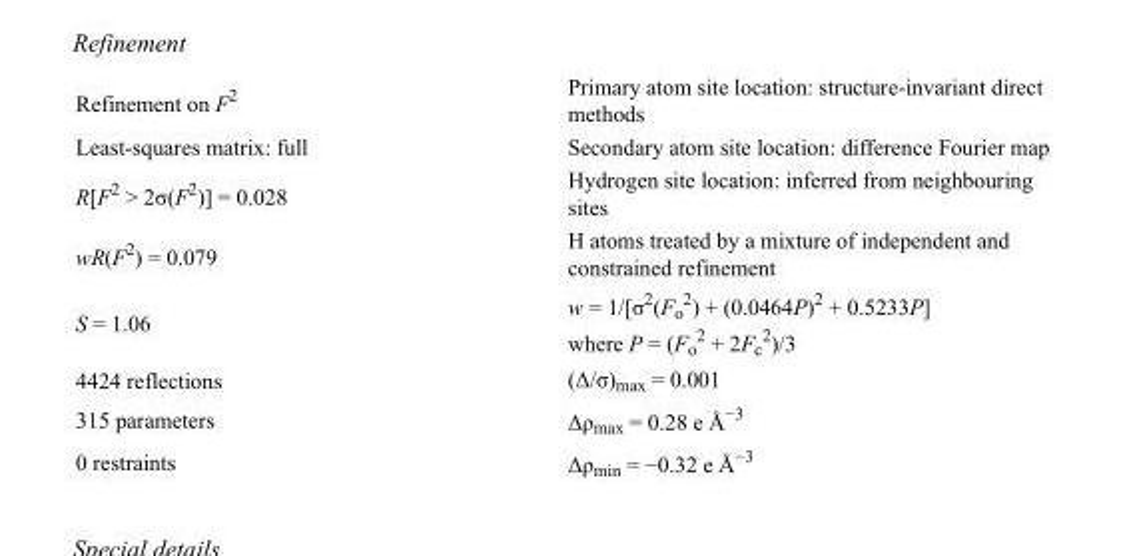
<table><tbody><tr><td>Refinement on F<sup>2</sup></td><td>Primary atom site location: structure-invariant direct methods</td></tr><tr><td>Least-squares matrix: full</td><td>Secondary atom site location: difference Fourier map</td></tr><tr><td>R[F<sup>2</sup> &gt; 2σ(F<sup>2</sup>)] = 0.028</td><td>Hydrogen site location: inferred from neighbouring sites</td></tr><tr><td>wR(F<sup>2</sup>) = 0.079</td><td>H atoms treated by a mixture of independent and constrained refinement</td></tr><tr><td>S = 1.06</td><td>w = 1/[σ<sup>2</sup>(F<sub>o</sub> <sup>2</sup>) + (0.0464P)<sup>2</sup> + 0.5233P] where P = (F<sub>o</sub> <sup>2</sup> + 2F<sub>c</sub> <sup>2</sup>)/3</td></tr><tr><td>4424 reflections</td><td>(Δ/σ)<sub>max</sub> = 0.001</td></tr><tr><td>315 parameters</td><td>Δρ<sub>max</sub> = 0.28 e Å<sup>−3</sup></td></tr><tr><td>0 restraints</td><td>Δρ<sub>min</sub> = −0.32 e Å<sup>−3</sup></td></tr></tbody></table>